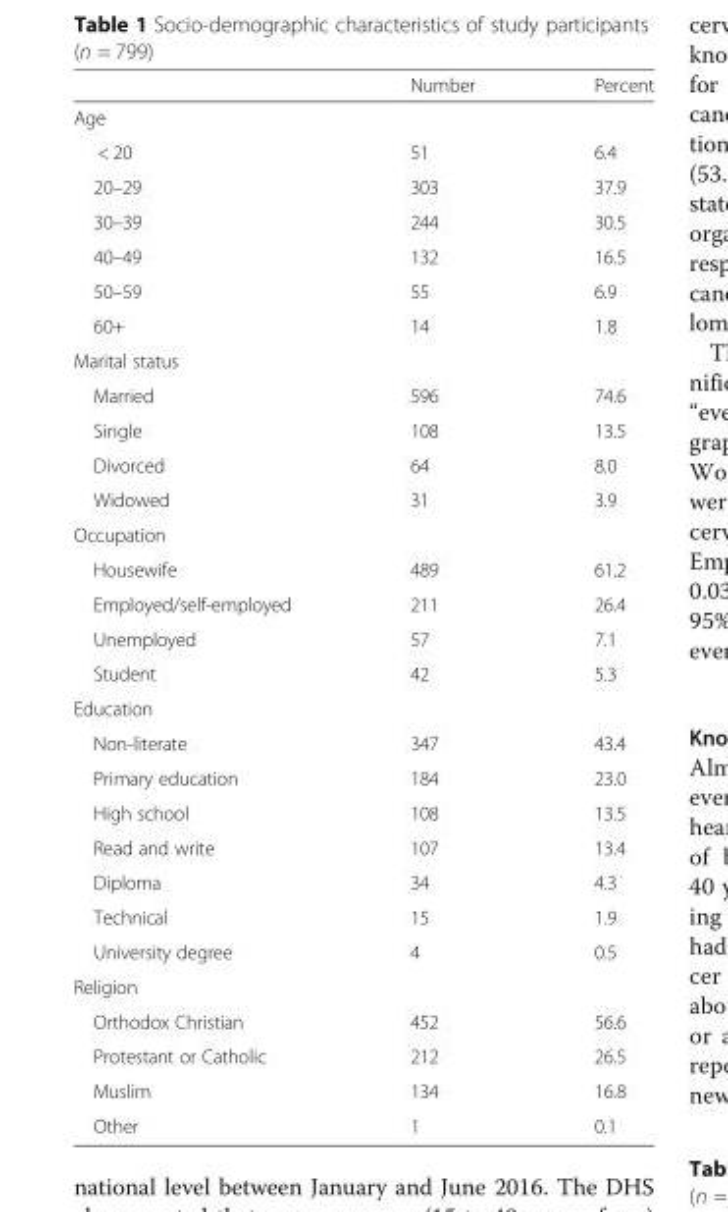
<table><thead><tr><td></td><td>Number</td><td>Percent</td></tr></thead><tbody><tr><td colspan="3">Age</td></tr><tr><td>&lt; 20</td><td>51</td><td>6.4</td></tr><tr><td>20–29</td><td>303</td><td>37.9</td></tr><tr><td>30–39</td><td>244</td><td>30.5</td></tr><tr><td>40–49</td><td>132</td><td>16.5</td></tr><tr><td>50–59</td><td>55</td><td>6.9</td></tr><tr><td>60+</td><td>14</td><td>1.8</td></tr><tr><td colspan="3">Marital status</td></tr><tr><td>Married</td><td>596</td><td>74.6</td></tr><tr><td>Single</td><td>108</td><td>13.5</td></tr><tr><td>Divorced</td><td>64</td><td>8.0</td></tr><tr><td>Widowed</td><td>31</td><td>3.9</td></tr><tr><td colspan="3">Occupation</td></tr><tr><td>Housewife</td><td>489</td><td>61.2</td></tr><tr><td>Employed/self-employed</td><td>211</td><td>26.4</td></tr><tr><td>Unemployed</td><td>57</td><td>7.1</td></tr><tr><td>Student</td><td>42</td><td>5.3</td></tr><tr><td colspan="3">Education</td></tr><tr><td>Non-literate</td><td>347</td><td>43.4</td></tr><tr><td>Primary education</td><td>184</td><td>23.0</td></tr><tr><td>High school</td><td>108</td><td>13.5</td></tr><tr><td>Read and write</td><td>107</td><td>13.4</td></tr><tr><td>Diploma</td><td>34</td><td>4.3</td></tr><tr><td>Technical</td><td>15</td><td>1.9</td></tr><tr><td>University degree</td><td>4</td><td>0.5</td></tr><tr><td colspan="3">Religion</td></tr><tr><td>Orthodox Christian</td><td>452</td><td>56.6</td></tr><tr><td>Protestant or Catholic</td><td>212</td><td>26.5</td></tr><tr><td>Muslim</td><td>134</td><td>16.8</td></tr><tr><td>Other</td><td>1</td><td>0.1</td></tr></tbody></table>